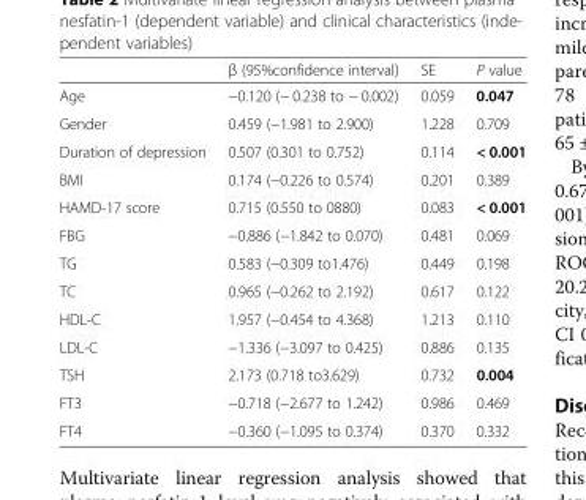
<table><thead><tr><td></td><td>β (95%confidence interval)</td><td>SE</td><td>P value</td></tr></thead><tbody><tr><td>Age</td><td>−0.120 (− 0.238 to − 0.002)</td><td>0.059</td><td>0.047</td></tr><tr><td>Gender</td><td>0.459 (−1.981 to 2.900)</td><td>1.228</td><td>0.709</td></tr><tr><td>Duration of depression</td><td>0.507 (0.301 to 0.752)</td><td>0.114</td><td>&lt; 0.001</td></tr><tr><td>BMI</td><td>0.174 (−0.226 to 0.574)</td><td>0.201</td><td>0.389</td></tr><tr><td>HAMD-17 score</td><td>0.715 (0.550 to 0880)</td><td>0.083</td><td>&lt; 0.001</td></tr><tr><td>FBG</td><td>−0.886 (−1.842 to 0.070)</td><td>0.481</td><td>0.069</td></tr><tr><td>TG</td><td>0.583 (−0.309 to1.476)</td><td>0.449</td><td>0.198</td></tr><tr><td>TC</td><td>0.965 (−0.262 to 2.192)</td><td>0.617</td><td>0.122</td></tr><tr><td>HDL-C</td><td>1.957 (−0.454 to 4.368)</td><td>1.213</td><td>0.110</td></tr><tr><td>LDL-C</td><td>−1.336 (−3.097 to 0.425)</td><td>0.886</td><td>0.135</td></tr><tr><td>TSH</td><td>2.173 (0.718 to3.629)</td><td>0.732</td><td>0.004</td></tr><tr><td>FT3</td><td>−0.718 (−2.677 to 1.242)</td><td>0.986</td><td>0.469</td></tr><tr><td>FT4</td><td>−0.360 (−1.095 to 0.374)</td><td>0.370</td><td>0.332</td></tr></tbody></table>